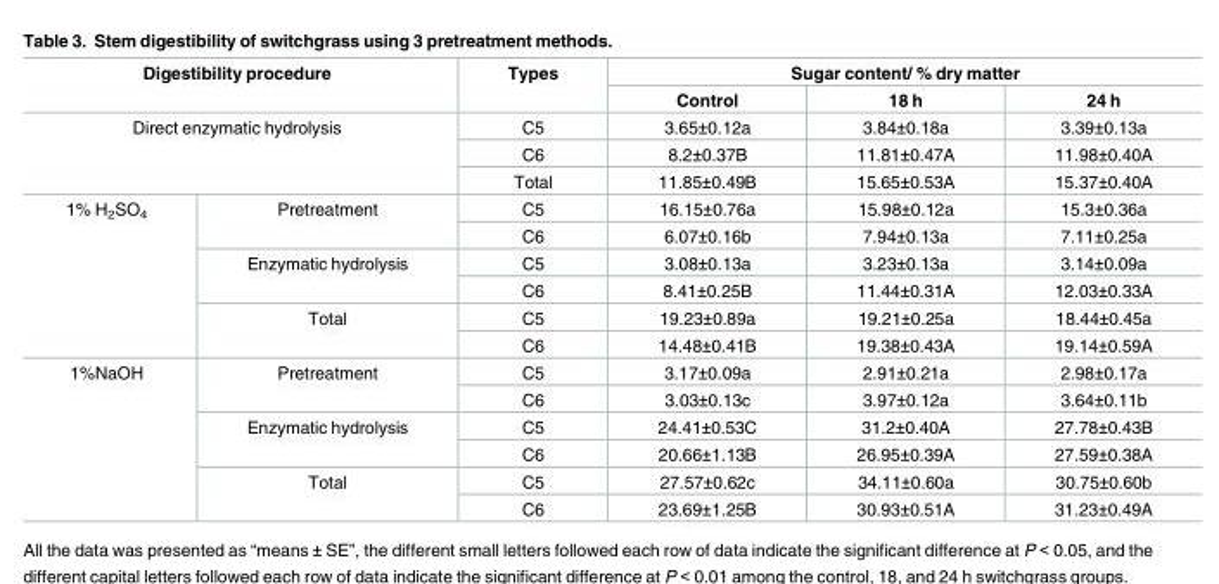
<table><thead><tr><td rowspan="2" colspan="2">Digestibility procedure</td><td rowspan="2">Types</td><td colspan="3">Sugar content/ % dry matter</td></tr><tr><td>Control</td><td>18 h</td><td>24 h</td></tr></thead><tbody><tr><td rowspan="3" colspan="2">Direct enzymatic hydrolysis</td><td>C5</td><td>3.65±0.12a</td><td>3.84±0.18a</td><td>3.39±0.13a</td></tr><tr><td>C6</td><td>8.2±0.37B</td><td>11.81±0.47A</td><td>11.98±0.40A</td></tr><tr><td>Total</td><td>11.85±0.49B</td><td>15.65±0.53A</td><td>15.37±0.40A</td></tr><tr><td rowspan="6">1% H<sub>2</sub>SO<sub>4</sub></td><td rowspan="2">Pretreatment</td><td>C5</td><td>16.15±0.76a</td><td>15.98±0.12a</td><td>15.3±0.36a</td></tr><tr><td>C6</td><td>6.07±0.16b</td><td>7.94±0.13a</td><td>7.11±0.25a</td></tr><tr><td rowspan="2">Enzymatic hydrolysis</td><td>C5</td><td>3.08±0.13a</td><td>3.23±0.13a</td><td>3.14±0.09a</td></tr><tr><td>C6</td><td>8.41±0.25B</td><td>11.44±0.31A</td><td>12.03±0.33A</td></tr><tr><td rowspan="2">Total</td><td>C5</td><td>19.23±0.89a</td><td>19.21±0.25a</td><td>18.44±0.45a</td></tr><tr><td>C6</td><td>14.48±0.41B</td><td>19.38±0.43A</td><td>19.14±0.59A</td></tr><tr><td rowspan="6">1%NaOH</td><td rowspan="2">Pretreatment</td><td>C5</td><td>3.17±0.09a</td><td>2.91±0.21a</td><td>2.98±0.17a</td></tr><tr><td>C6</td><td>3.03±0.13c</td><td>3.97±0.12a</td><td>3.64±0.11b</td></tr><tr><td rowspan="2">Enzymatic hydrolysis</td><td>C5</td><td>24.41±0.53C</td><td>31.2±0.40A</td><td>27.78±0.43B</td></tr><tr><td>C6</td><td>20.66±1.13B</td><td>26.95±0.39A</td><td>27.59±0.38A</td></tr><tr><td rowspan="2">Total</td><td>C5</td><td>27.57±0.62c</td><td>34.11±0.60a</td><td>30.75±0.60b</td></tr><tr><td>C6</td><td>23.69±1.25B</td><td>30.93±0.51A</td><td>31.23±0.49A</td></tr></tbody></table>